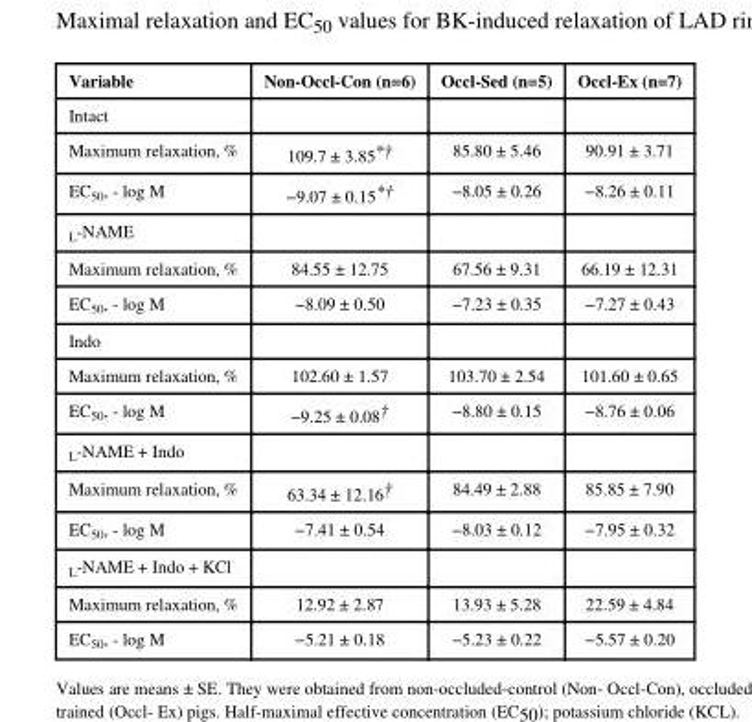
<table><thead><tr><td>Variable</td><td>Non-Occl-Con (n=6)</td><td>Occl-Sed (n=5)</td><td>Occl-Ex (n=7)</td></tr></thead><tbody><tr><td colspan="4">Intact</td></tr><tr><td>Maximum relaxation, %</td><td>109.7 ± 3.85*†</td><td>85.80 ± 5.46</td><td>90.91 ± 3.71</td></tr><tr><td>EC<sub>50</sub>, - log M</td><td>−9.07 ± 0.15*†</td><td>−8.05 ± 0.26</td><td>−8.26 ± 0.11</td></tr><tr><td colspan="4"><sub>L</sub>-NAME</td></tr><tr><td>Maximum relaxation, %</td><td>84.55 ± 12.75</td><td>67.56 ± 9.31</td><td>66.19 ± 12.31</td></tr><tr><td>EC<sub>50</sub>, - log M</td><td>−8.09 ± 0.50</td><td>−7.23 ± 0.35</td><td>−7.27 ± 0.43</td></tr><tr><td colspan="4">Indo</td></tr><tr><td>Maximum relaxation, %</td><td>102.60 ± 1.57</td><td>103.70 ± 2.54</td><td>101.60 ± 0.65</td></tr><tr><td>EC<sub>50</sub>, - log M</td><td>−9.25 ± 0.08†</td><td>−8.80 ± 0.15</td><td>−8.76 ± 0.06</td></tr><tr><td colspan="4"><sub>L</sub>-NAME + Indo</td></tr><tr><td>Maximum relaxation, %</td><td>63.34 ± 12.16†</td><td>84.49 ± 2.88</td><td>85.85 ± 7.90</td></tr><tr><td>EC<sub>50</sub>, - log M</td><td>−7.41 ± 0.54</td><td>−8.03 ± 0.12</td><td>−7.95 ± 0.32</td></tr><tr><td colspan="4"><sub>L</sub>-NAME + Indo + KCl</td></tr><tr><td>Maximum relaxation, %</td><td>12.92 ± 2.87</td><td>13.93 ± 5.28</td><td>22.59 ± 4.84</td></tr><tr><td>EC<sub>50</sub>, - log M</td><td>−5.21 ± 0.18</td><td>−5.23 ± 0.22</td><td>−5.57 ± 0.20</td></tr></tbody></table>